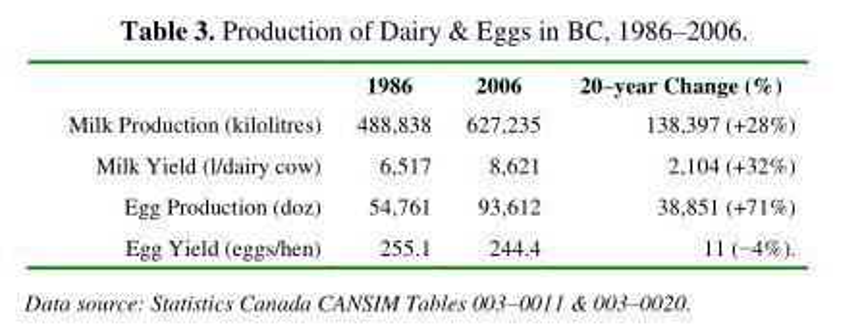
<table><thead><tr><td></td><td>1986</td><td>2006</td><td>20–year Change (%)</td></tr></thead><tbody><tr><td>Milk Production (kilolitres)</td><td>488,838</td><td>627,235</td><td>138,397 (+28%)</td></tr><tr><td>Milk Yield (l/dairy cow)</td><td>6,517</td><td>8,621</td><td>2,104 (+32%)</td></tr><tr><td>Egg Production (doz)</td><td>54,761</td><td>93,612</td><td>38,851 (+71%)</td></tr><tr><td>Egg Yield (eggs/hen)</td><td>255.1</td><td>244.4</td><td>11 (−4%).</td></tr></tbody></table>